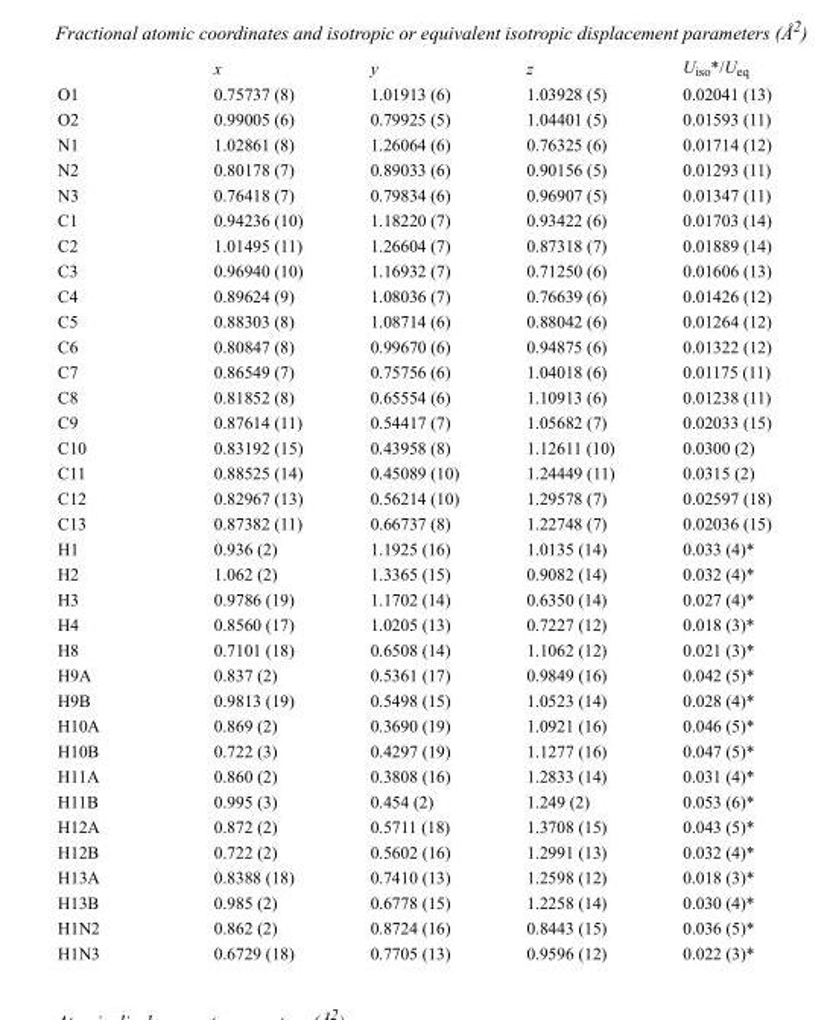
<table><thead><tr><td></td><td>x</td><td>y</td><td>z</td><td>U<sub>iso</sub>*/U<sub>eq</sub></td></tr></thead><tbody><tr><td>O1</td><td>0.75737 (8)</td><td>1.01913 (6)</td><td>1.03928 (5)</td><td>0.02041 (13)</td></tr><tr><td>O2</td><td>0.99005 (6)</td><td>0.79925 (5)</td><td>1.04401 (5)</td><td>0.01593 (11)</td></tr><tr><td>N1</td><td>1.02861 (8)</td><td>1.26064 (6)</td><td>0.76325 (6)</td><td>0.01714 (12)</td></tr><tr><td>N2</td><td>0.80178 (7)</td><td>0.89033 (6)</td><td>0.90156 (5)</td><td>0.01293 (11)</td></tr><tr><td>N3</td><td>0.76418 (7)</td><td>0.79834 (6)</td><td>0.96907 (5)</td><td>0.01347 (11)</td></tr><tr><td>C1</td><td>0.94236 (10)</td><td>1.18220 (7)</td><td>0.93422 (6)</td><td>0.01703 (14)</td></tr><tr><td>C2</td><td>1.01495 (11)</td><td>1.26604 (7)</td><td>0.87318 (7)</td><td>0.01889 (14)</td></tr><tr><td>C3</td><td>0.96940 (10)</td><td>1.16932 (7)</td><td>0.71250 (6)</td><td>0.01606 (13)</td></tr><tr><td>C4</td><td>0.89624 (9)</td><td>1.08036 (7)</td><td>0.76639 (6)</td><td>0.01426 (12)</td></tr><tr><td>C5</td><td>0.88303 (8)</td><td>1.08714 (6)</td><td>0.88042 (6)</td><td>0.01264 (12)</td></tr><tr><td>C6</td><td>0.80847 (8)</td><td>0.99670 (6)</td><td>0.94875 (6)</td><td>0.01322 (12)</td></tr><tr><td>C7</td><td>0.86549 (7)</td><td>0.75756 (6)</td><td>1.04018 (6)</td><td>0.01175 (11)</td></tr><tr><td>C8</td><td>0.81852 (8)</td><td>0.65554 (6)</td><td>1.10913 (6)</td><td>0.01238 (11)</td></tr><tr><td>C9</td><td>0.87614 (11)</td><td>0.54417 (7)</td><td>1.05682 (7)</td><td>0.02033 (15)</td></tr><tr><td>C10</td><td>0.83192 (15)</td><td>0.43958 (8)</td><td>1.12611 (10)</td><td>0.0300 (2)</td></tr><tr><td>C11</td><td>0.88525 (14)</td><td>0.45089 (10)</td><td>1.24449 (11)</td><td>0.0315 (2)</td></tr><tr><td>C12</td><td>0.82967 (13)</td><td>0.56214 (10)</td><td>1.29578 (7)</td><td>0.02597 (18)</td></tr><tr><td>C13</td><td>0.87382 (11)</td><td>0.66737 (8)</td><td>1.22748 (7)</td><td>0.02036 (15)</td></tr><tr><td>H1</td><td>0.936 (2)</td><td>1.1925 (16)</td><td>1.0135 (14)</td><td>0.033 (4)*</td></tr><tr><td>H2</td><td>1.062 (2)</td><td>1.3365 (15)</td><td>0.9082 (14)</td><td>0.032 (4)*</td></tr><tr><td>H3</td><td>0.9786 (19)</td><td>1.1702 (14)</td><td>0.6350 (14)</td><td>0.027 (4)*</td></tr><tr><td>H4</td><td>0.8560 (17)</td><td>1.0205 (13)</td><td>0.7227 (12)</td><td>0.018 (3)*</td></tr><tr><td>H8</td><td>0.7101 (18)</td><td>0.6508 (14)</td><td>1.1062 (12)</td><td>0.021 (3)*</td></tr><tr><td>H9A</td><td>0.837 (2)</td><td>0.5361 (17)</td><td>0.9849 (16)</td><td>0.042 (5)*</td></tr><tr><td>H9B</td><td>0.9813 (19)</td><td>0.5498 (15)</td><td>1.0523 (14)</td><td>0.028 (4)*</td></tr><tr><td>H10A</td><td>0.869 (2)</td><td>0.3690 (19)</td><td>1.0921 (16)</td><td>0.046 (5)*</td></tr><tr><td>H10B</td><td>0.722 (3)</td><td>0.4297 (19)</td><td>1.1277 (16)</td><td>0.047 (5)*</td></tr><tr><td>H11A</td><td>0.860 (2)</td><td>0.3808 (16)</td><td>1.2833 (14)</td><td>0.031 (4)*</td></tr><tr><td>H11B</td><td>0.995 (3)</td><td>0.454 (2)</td><td>1.249 (2)</td><td>0.053 (6)*</td></tr><tr><td>H12A</td><td>0.872 (2)</td><td>0.5711 (18)</td><td>1.3708 (15)</td><td>0.043 (5)*</td></tr><tr><td>H12B</td><td>0.722 (2)</td><td>0.5602 (16)</td><td>1.2991 (13)</td><td>0.032 (4)*</td></tr><tr><td>H13A</td><td>0.8388 (18)</td><td>0.7410 (13)</td><td>1.2598 (12)</td><td>0.018 (3)*</td></tr><tr><td>H13B</td><td>0.985 (2)</td><td>0.6778 (15)</td><td>1.2258 (14)</td><td>0.030 (4)*</td></tr><tr><td>H1N2</td><td>0.862 (2)</td><td>0.8724 (16)</td><td>0.8443 (15)</td><td>0.036 (5)*</td></tr><tr><td>H1N3</td><td>0.6729 (18)</td><td>0.7705 (13)</td><td>0.9596 (12)</td><td>0.022 (3)*</td></tr></tbody></table>